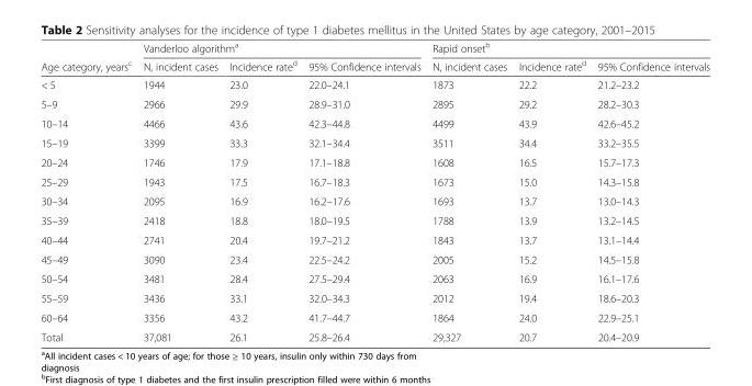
<table><thead><tr><td rowspan="2">Age category, years<sup>c</sup></td><td colspan="3">Vanderloo algorithm<sup>a</sup></td><td colspan="3">Rapid onset<sup>b</sup></td></tr><tr><td>N, incident cases</td><td>Incidence rate<sup>d</sup></td><td>95% Confidence intervals</td><td>N, incident cases</td><td>Incidence rate<sup>d</sup></td><td>95% Confidence intervals</td></tr></thead><tbody><tr><td>&lt; 5</td><td>1944</td><td>23.0</td><td>22.0–24.1</td><td>1873</td><td>22.2</td><td>21.2–23.2</td></tr><tr><td>5–9</td><td>2966</td><td>29.9</td><td>28.9–31.0</td><td>2895</td><td>29.2</td><td>28.2–30.3</td></tr><tr><td>10–14</td><td>4466</td><td>43.6</td><td>42.3–44.8</td><td>4499</td><td>43.9</td><td>42.6–45.2</td></tr><tr><td>15–19</td><td>3399</td><td>33.3</td><td>32.1–34.4</td><td>3511</td><td>34.4</td><td>33.2–35.5</td></tr><tr><td>20–24</td><td>1746</td><td>17.9</td><td>17.1–18.8</td><td>1608</td><td>16.5</td><td>15.7–17.3</td></tr><tr><td>25–29</td><td>1943</td><td>17.5</td><td>16.7–18.3</td><td>1673</td><td>15.0</td><td>14.3–15.8</td></tr><tr><td>30–34</td><td>2095</td><td>16.9</td><td>16.2–17.6</td><td>1693</td><td>13.7</td><td>13.0–14.3</td></tr><tr><td>35–39</td><td>2418</td><td>18.8</td><td>18.0–19.5</td><td>1788</td><td>13.9</td><td>13.2–14.5</td></tr><tr><td>40–44</td><td>2741</td><td>20.4</td><td>19.7–21.2</td><td>1843</td><td>13.7</td><td>13.1–14.4</td></tr><tr><td>45–49</td><td>3090</td><td>23.4</td><td>22.5–24.2</td><td>2005</td><td>15.2</td><td>14.5–15.8</td></tr><tr><td>50–54</td><td>3481</td><td>28.4</td><td>27.5–29.4</td><td>2063</td><td>16.9</td><td>16.1–17.6</td></tr><tr><td>55–59</td><td>3436</td><td>33.1</td><td>32.0–34.3</td><td>2012</td><td>19.4</td><td>18.6–20.3</td></tr><tr><td>60–64</td><td>3356</td><td>43.2</td><td>41.7–44.7</td><td>1864</td><td>24.0</td><td>22.9–25.1</td></tr><tr><td>Total</td><td>37,081</td><td>26.1</td><td>25.8–26.4</td><td>29,327</td><td>20.7</td><td>20.4–20.9</td></tr></tbody></table>